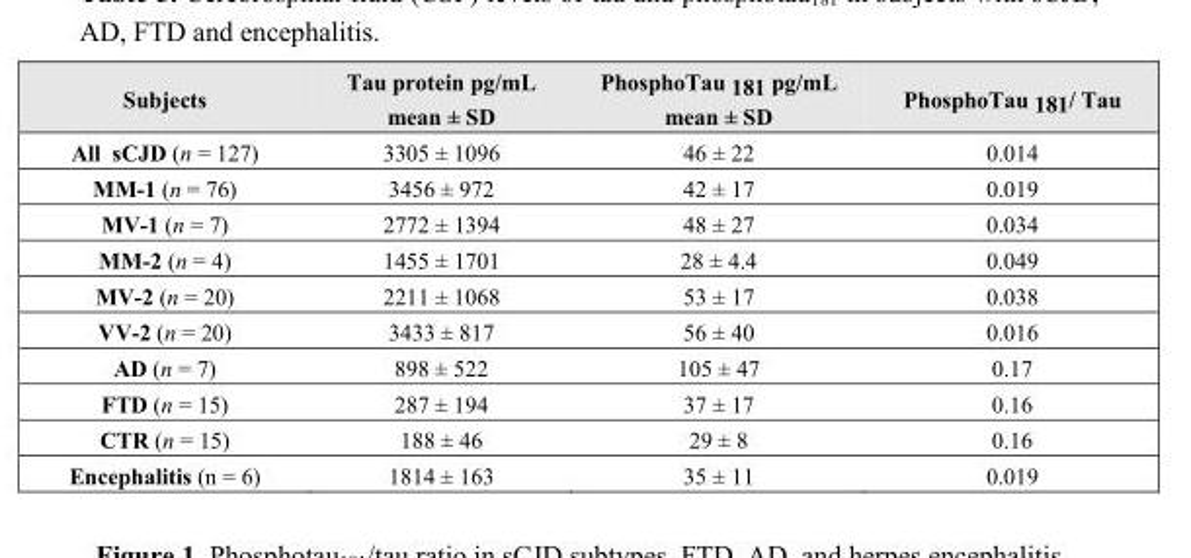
<table><thead><tr><td>Subjects</td><td>Tau protein pg/mL mean ± SD</td><td>PhosphoTau <sub>181</sub> pg/mL mean ± SD</td><td>PhosphoTau <sub>181</sub>/ Tau</td></tr></thead><tbody><tr><td>All sCJD (n = 127)</td><td>3305 ± 1096</td><td>46 ± 22</td><td>0.014</td></tr><tr><td>MM-1 (n = 76)</td><td>3456 ± 972</td><td>42 ± 17</td><td>0.019</td></tr><tr><td>MV-1 (n = 7)</td><td>2772 ± 1394</td><td>48 ± 27</td><td>0.034</td></tr><tr><td>MM-2 (n = 4)</td><td>1455 ± 1701</td><td>28 ± 4.4</td><td>0.049</td></tr><tr><td>MV-2 (n = 20)</td><td>2211 ± 1068</td><td>53 ± 17</td><td>0.038</td></tr><tr><td>VV-2 (n = 20)</td><td>3433 ± 817</td><td>56 ± 40</td><td>0.016</td></tr><tr><td>AD (n = 7)</td><td>898 ± 522</td><td>105 ± 47</td><td>0.17</td></tr><tr><td>FTD (n = 15)</td><td>287 ± 194</td><td>37 ± 17</td><td>0.16</td></tr><tr><td>CTR (n = 15)</td><td>188 ± 46</td><td>29 ± 8</td><td>0.16</td></tr><tr><td>Encephalitis (n = 6)</td><td>1814 ± 163</td><td>35 ± 11</td><td>0.019</td></tr></tbody></table>